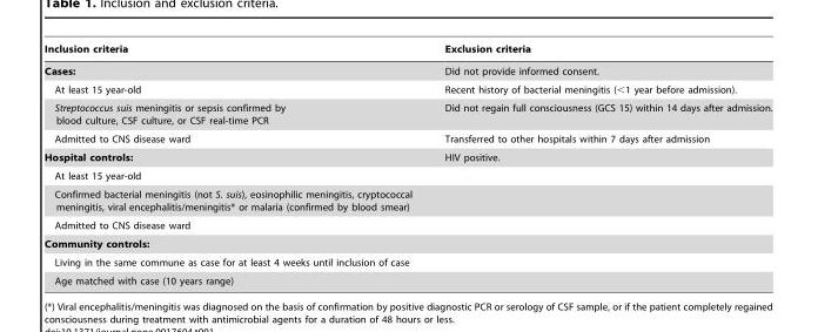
<table><thead><tr><td>Inclusion criteria</td><td>Exclusion criteria</td></tr></thead><tbody><tr><td>Cases:</td><td>Did not provide informed consent.</td></tr><tr><td>At least 15 year-old</td><td>Recent history of bacterial meningitis (&lt;1 year before admission).</td></tr><tr><td>Streptococcus suis meningitis or sepsis confirmed by blood culture, CSF culture, or CSF real-time PCR</td><td>Did not regain full consciousness (GCS 15) within 14 days after admission.</td></tr><tr><td>Admitted to CNS disease ward</td><td>Transferred to other hospitals within 7 days after admission</td></tr><tr><td>Hospital controls:</td><td>HIV positive.</td></tr><tr><td colspan="2">At least 15 year-old</td></tr><tr><td colspan="2">Confirmed bacterial meningitis (not S. suis), eosinophilic meningitis, cryptococcal meningitis, viral encephalitis/meningitis* or malaria (confirmed by blood smear)</td></tr><tr><td colspan="2">Admitted to CNS disease ward</td></tr><tr><td colspan="2">Community controls:</td></tr><tr><td colspan="2">Living in the same commune as case for at least 4 weeks until inclusion of case</td></tr><tr><td>Age matched with case (10 years range)</td><td></td></tr></tbody></table>